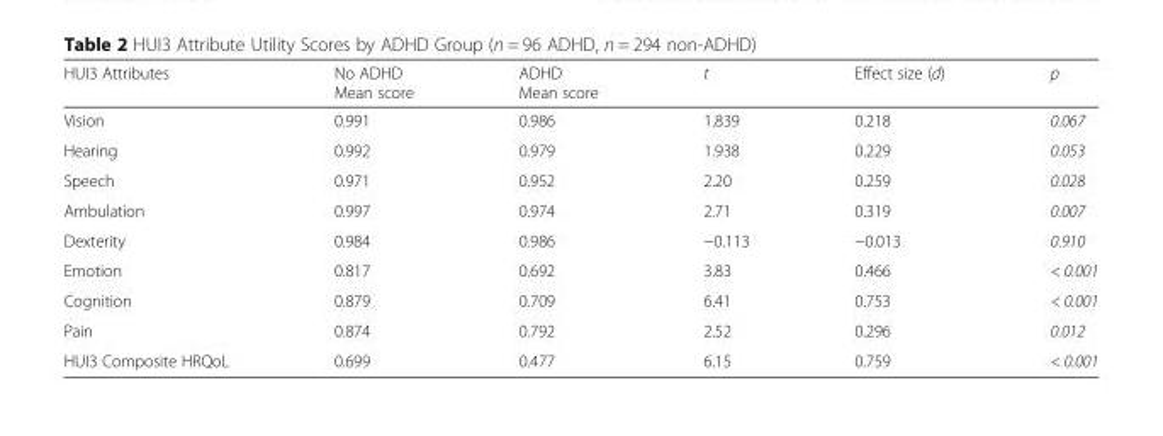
<table><thead><tr><td>HUI3 Attributes</td><td>No ADHD Mean score</td><td>ADHD Mean score</td><td>t</td><td>Effect size (d)</td><td>p</td></tr></thead><tbody><tr><td>Vision</td><td>0.991</td><td>0.986</td><td>1.839</td><td>0.218</td><td>0.067</td></tr><tr><td>Hearing</td><td>0.992</td><td>0.979</td><td>1.938</td><td>0.229</td><td>0.053</td></tr><tr><td>Speech</td><td>0.971</td><td>0.952</td><td>2.20</td><td>0.259</td><td>0.028</td></tr><tr><td>Ambulation</td><td>0.997</td><td>0.974</td><td>2.71</td><td>0.319</td><td>0.007</td></tr><tr><td>Dexterity</td><td>0.984</td><td>0.986</td><td>−0.113</td><td>−0.013</td><td>0.910</td></tr><tr><td>Emotion</td><td>0.817</td><td>0.692</td><td>3.83</td><td>0.466</td><td>&lt; 0.001</td></tr><tr><td>Cognition</td><td>0.879</td><td>0.709</td><td>6.41</td><td>0.753</td><td>&lt; 0.001</td></tr><tr><td>Pain</td><td>0.874</td><td>0.792</td><td>2.52</td><td>0.296</td><td>0.012</td></tr><tr><td>HUI3 Composite HRQoL</td><td>0.699</td><td>0.477</td><td>6.15</td><td>0.759</td><td>&lt; 0.001</td></tr></tbody></table>